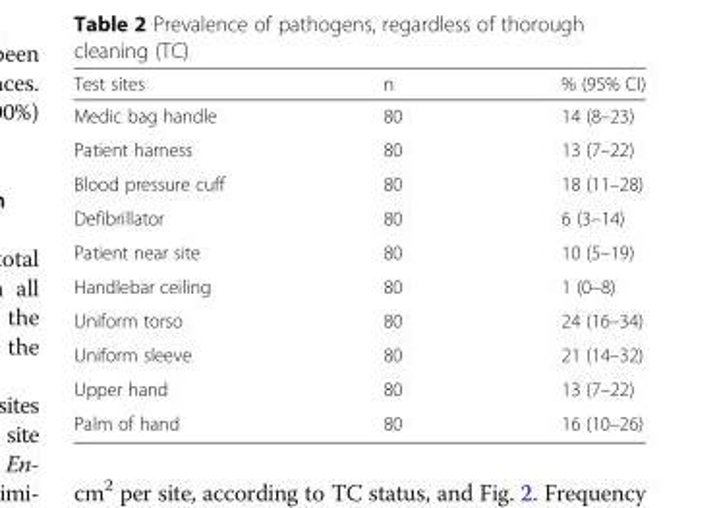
<table><thead><tr><td>Test sites</td><td>n</td><td>% (95% CI)</td></tr></thead><tbody><tr><td>Medic bag handle</td><td>80</td><td>14 (8–23)</td></tr><tr><td>Patient harness</td><td>80</td><td>13 (7–22)</td></tr><tr><td>Blood pressure cuff</td><td>80</td><td>18 (11–28)</td></tr><tr><td>Defibrillator</td><td>80</td><td>6 (3–14)</td></tr><tr><td>Patient near site</td><td>80</td><td>10 (5–19)</td></tr><tr><td>Handlebar ceiling</td><td>80</td><td>1 (0–8)</td></tr><tr><td>Uniform torso</td><td>80</td><td>24 (16–34)</td></tr><tr><td>Uniform sleeve</td><td>80</td><td>21 (14–32)</td></tr><tr><td>Upper hand</td><td>80</td><td>13 (7–22)</td></tr><tr><td>Palm of hand</td><td>80</td><td>16 (10–26)</td></tr></tbody></table>